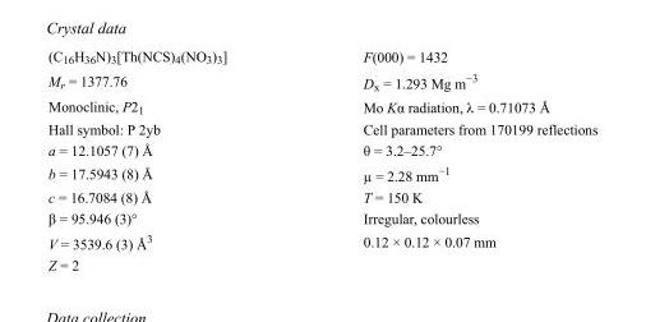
<table><tbody><tr><td>(C<sub>16</sub>H<sub>36</sub>N)<sub>3</sub>[Th(NCS)<sub>4</sub>(NO<sub>3</sub>)<sub>3</sub>]</td><td>F(000) = 1432</td></tr><tr><td>M<sub>r</sub> = 1377.76</td><td>D<sub>x</sub> = 1.293 Mg m<sup>−3</sup></td></tr><tr><td>Monoclinic, P2<sub>1</sub></td><td>Mo Kα radiation, λ = 0.71073 Å</td></tr><tr><td>Hall symbol: P 2yb</td><td>Cell parameters from 170199 reflections</td></tr><tr><td>a = 12.1057 (7) Å</td><td>θ = 3.2–25.7°</td></tr><tr><td>b = 17.5943 (8) Å</td><td>µ = 2.28 mm<sup>−1</sup></td></tr><tr><td>c = 16.7084 (8) Å</td><td>T = 150 K</td></tr><tr><td>β = 95.946 (3)°</td><td>Irregular, colourless</td></tr><tr><td>V = 3539.6 (3) Å<sup>3</sup></td><td>0.12 × 0.12 × 0.07 mm</td></tr><tr><td>Z = 2</td><td></td></tr></tbody></table>